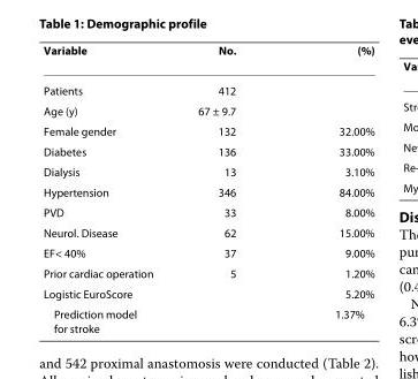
<table><thead><tr><td>Variable</td><td>No.</td><td>(%)</td></tr></thead><tbody><tr><td>Patients</td><td>412</td><td></td></tr><tr><td>Age (y)</td><td>67 ± 9.7</td><td></td></tr><tr><td>Female gender</td><td>132</td><td>32.00%</td></tr><tr><td>Diabetes</td><td>136</td><td>33.00%</td></tr><tr><td>Dialysis</td><td>13</td><td>3.10%</td></tr><tr><td>Hypertension</td><td>346</td><td>84.00%</td></tr><tr><td>PVD</td><td>33</td><td>8.00%</td></tr><tr><td>Neurol. Disease</td><td>62</td><td>15.00%</td></tr><tr><td>EF&lt; 40%</td><td>37</td><td>9.00%</td></tr><tr><td>Prior cardiac operation</td><td>5</td><td>1.20%</td></tr><tr><td>Logistic EuroScore</td><td></td><td>5.20%</td></tr><tr><td>Prediction model for stroke</td><td></td><td>1.37%</td></tr></tbody></table>